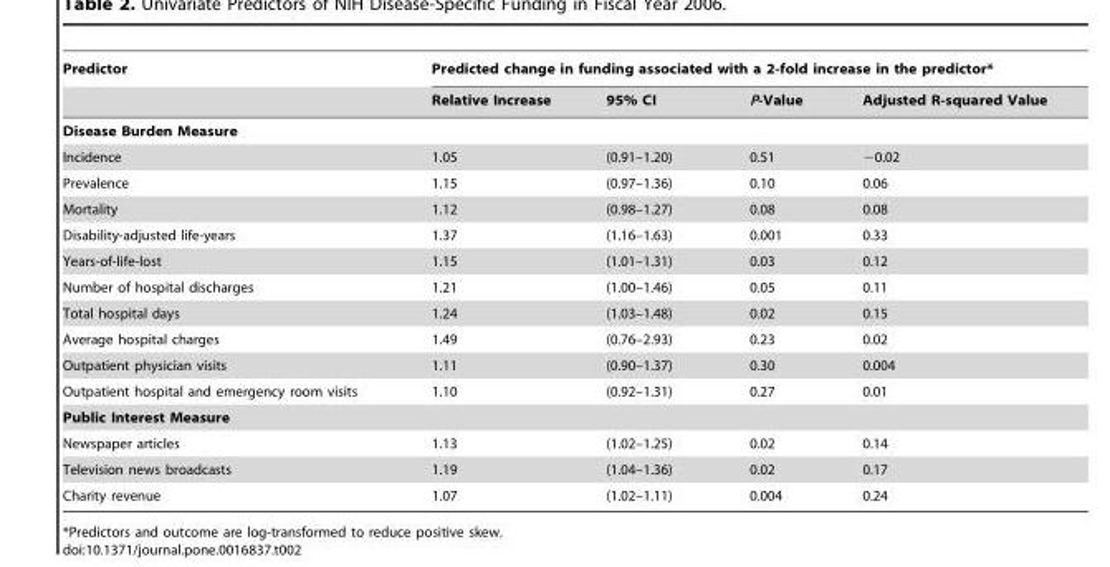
<table><thead><tr><td rowspan="2">Predictor</td><td colspan="4">Predicted change in funding associated with a 2-fold increase in the predictor*</td></tr><tr><td>Relative Increase</td><td>95% CI</td><td>P-Value</td><td>Adjusted R-squared Value</td></tr></thead><tbody><tr><td colspan="5">Disease Burden Measure</td></tr><tr><td>Incidence</td><td>1.05</td><td>(0.91–1.20)</td><td>0.51</td><td>−0.02</td></tr><tr><td>Prevalence</td><td>1.15</td><td>(0.97–1.36)</td><td>0.10</td><td>0.06</td></tr><tr><td>Mortality</td><td>1.12</td><td>(0.98–1.27)</td><td>0.08</td><td>0.08</td></tr><tr><td>Disability-adjusted life-years</td><td>1.37</td><td>(1.16–1.63)</td><td>0.001</td><td>0.33</td></tr><tr><td>Years-of-life-lost</td><td>1.15</td><td>(1.01–1.31)</td><td>0.03</td><td>0.12</td></tr><tr><td>Number of hospital discharges</td><td>1.21</td><td>(1.00–1.46)</td><td>0.05</td><td>0.11</td></tr><tr><td>Total hospital days</td><td>1.24</td><td>(1.03–1.48)</td><td>0.02</td><td>0.15</td></tr><tr><td>Average hospital charges</td><td>1.49</td><td>(0.76–2.93)</td><td>0.23</td><td>0.02</td></tr><tr><td>Outpatient physician visits</td><td>1.11</td><td>(0.90–1.37)</td><td>0.30</td><td>0.004</td></tr><tr><td>Outpatient hospital and emergency room visits</td><td>1.10</td><td>(0.92–1.31)</td><td>0.27</td><td>0.01</td></tr><tr><td colspan="5">Public Interest Measure</td></tr><tr><td>Newspaper articles</td><td>1.13</td><td>(1.02–1.25)</td><td>0.02</td><td>0.14</td></tr><tr><td>Television news broadcasts</td><td>1.19</td><td>(1.04–1.36)</td><td>0.02</td><td>0.17</td></tr><tr><td>Charity revenue</td><td>1.07</td><td>(1.02–1.11)</td><td>0.004</td><td>0.24</td></tr></tbody></table>